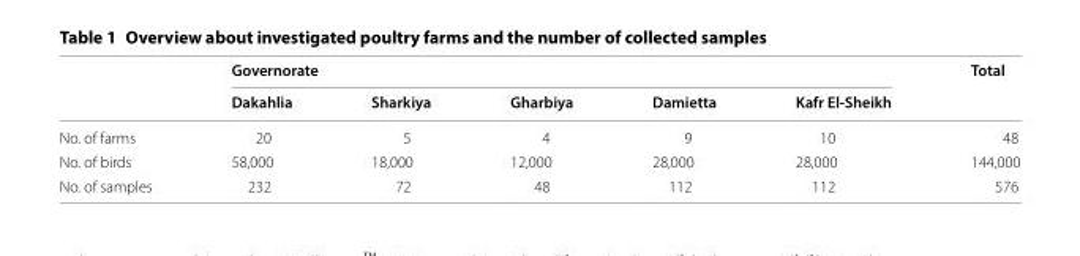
<table><thead><tr><td rowspan="2"></td><td colspan="5">Governorate</td><td rowspan="2">Total</td></tr><tr><td>Dakahlia</td><td>Sharkiya</td><td>Gharbiya</td><td>Damietta</td><td>Kafr El‑Sheikh</td></tr></thead><tbody><tr><td>No. of farms</td><td>20</td><td>5</td><td>4</td><td>9</td><td>10</td><td>48</td></tr><tr><td>No. of birds</td><td>58,000</td><td>18,000</td><td>12,000</td><td>28,000</td><td>28,000</td><td>144,000</td></tr><tr><td>No. of samples</td><td>232</td><td>72</td><td>48</td><td>112</td><td>112</td><td>576</td></tr></tbody></table>